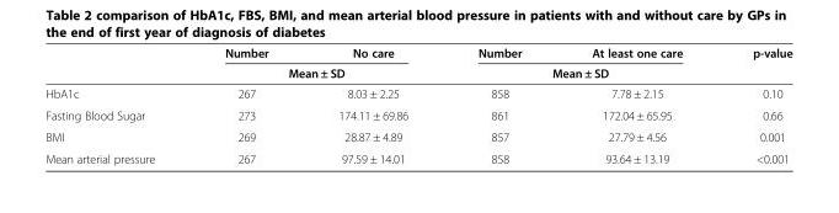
<table><thead><tr><td rowspan="2"></td><td>Number</td><td>No care</td><td>Number</td><td>At least one care</td><td rowspan="2">p-value</td></tr><tr><td colspan="2">Mean ± SD</td><td colspan="2">Mean ± SD</td></tr></thead><tbody><tr><td>HbA1c</td><td>267</td><td>8.03 ± 2.25</td><td>858</td><td>7.78 ± 2.15</td><td>0.10</td></tr><tr><td>Fasting Blood Sugar</td><td>273</td><td>174.11 ± 69.86</td><td>861</td><td>172.04 ± 65.95</td><td>0.66</td></tr><tr><td>BMI</td><td>269</td><td>28.87 ± 4.89</td><td>857</td><td>27.79 ± 4.56</td><td>0.001</td></tr><tr><td>Mean arterial pressure</td><td>267</td><td>97.59 ± 14.01</td><td>858</td><td>93.64 ± 13.19</td><td>&lt;0.001</td></tr></tbody></table>